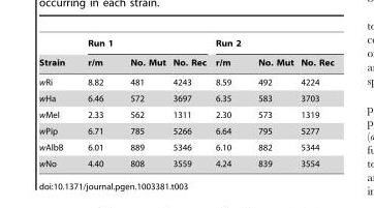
<table><thead><tr><td rowspan="2">Strain</td><td colspan="3">Run 1</td><td colspan="3">Run 2</td></tr><tr><td>r/m</td><td>No. Mut</td><td>No. Rec</td><td>r/m</td><td>No. Mut</td><td>No. Rec</td></tr></thead><tbody><tr><td>wRi</td><td>8.82</td><td>481</td><td>4243</td><td>8.59</td><td>492</td><td>4224</td></tr><tr><td>wHa</td><td>6.46</td><td>572</td><td>3697</td><td>6.35</td><td>583</td><td>3703</td></tr><tr><td>wMel</td><td>2.33</td><td>562</td><td>1311</td><td>2.30</td><td>573</td><td>1319</td></tr><tr><td>wPip</td><td>6.71</td><td>785</td><td>5266</td><td>6.64</td><td>795</td><td>5277</td></tr><tr><td>wAlbB</td><td>6.01</td><td>889</td><td>5346</td><td>6.10</td><td>882</td><td>5344</td></tr><tr><td>wNo</td><td>4.40</td><td>808</td><td>3559</td><td>4.24</td><td>839</td><td>3554</td></tr></tbody></table>